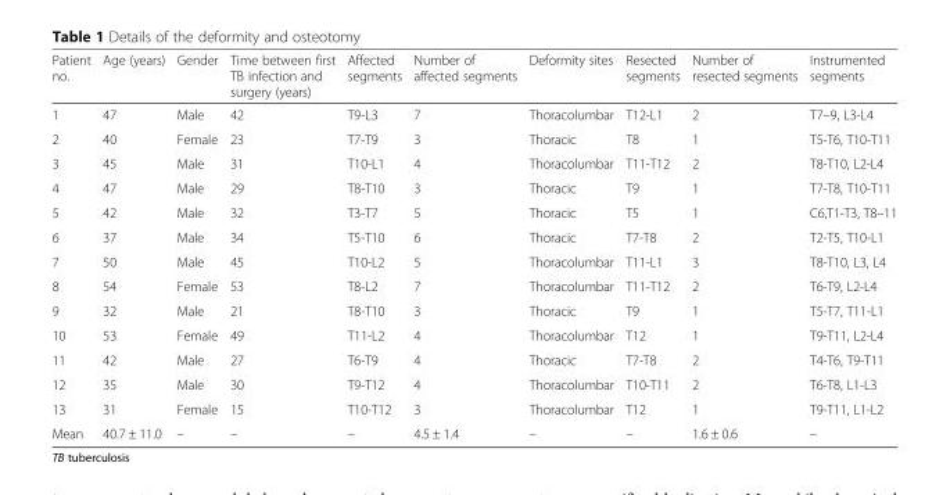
<table><thead><tr><td>Patient no.</td><td>Age (years)</td><td>Gender</td><td>Time between first TB infection and surgery (years)</td><td>Affected segments</td><td>Number of affected segments</td><td>Deformity sites</td><td>Resected segments</td><td>Number of resected segments</td><td>Instrumented segments</td></tr></thead><tbody><tr><td>1</td><td>47</td><td>Male</td><td>42</td><td>T9-L3</td><td>7</td><td>Thoracolumbar</td><td>T12-L1</td><td>2</td><td>T7–9, L3-L4</td></tr><tr><td>2</td><td>40</td><td>Female</td><td>23</td><td>T7-T9</td><td>3</td><td>Thoracic</td><td>T8</td><td>1</td><td>T5-T6, T10-T11</td></tr><tr><td>3</td><td>45</td><td>Male</td><td>31</td><td>T10-L1</td><td>4</td><td>Thoracolumbar</td><td>T11-T12</td><td>2</td><td>T8-T10, L2-L4</td></tr><tr><td>4</td><td>47</td><td>Male</td><td>29</td><td>T8-T10</td><td>3</td><td>Thoracic</td><td>T9</td><td>1</td><td>T7-T8, T10-T11</td></tr><tr><td>5</td><td>42</td><td>Male</td><td>32</td><td>T3-T7</td><td>5</td><td>Thoracic</td><td>T5</td><td>1</td><td>C6,T1-T3, T8–11</td></tr><tr><td>6</td><td>37</td><td>Male</td><td>34</td><td>T5-T10</td><td>6</td><td>Thoracic</td><td>T7-T8</td><td>2</td><td>T2-T5, T10-L1</td></tr><tr><td>7</td><td>50</td><td>Male</td><td>45</td><td>T10-L2</td><td>5</td><td>Thoracolumbar</td><td>T11-L1</td><td>3</td><td>T8-T10, L3, L4</td></tr><tr><td>8</td><td>54</td><td>Female</td><td>53</td><td>T8-L2</td><td>7</td><td>Thoracolumbar</td><td>T11-T12</td><td>2</td><td>T6-T9, L2-L4</td></tr><tr><td>9</td><td>32</td><td>Male</td><td>21</td><td>T8-T10</td><td>3</td><td>Thoracic</td><td>T9</td><td>1</td><td>T5-T7, T11-L1</td></tr><tr><td>10</td><td>53</td><td>Female</td><td>49</td><td>T11-L2</td><td>4</td><td>Thoracolumbar</td><td>T12</td><td>1</td><td>T9-T11, L2-L4</td></tr><tr><td>11</td><td>42</td><td>Male</td><td>27</td><td>T6-T9</td><td>4</td><td>Thoracic</td><td>T7-T8</td><td>2</td><td>T4-T6, T9-T11</td></tr><tr><td>12</td><td>35</td><td>Male</td><td>30</td><td>T9-T12</td><td>4</td><td>Thoracolumbar</td><td>T10-T11</td><td>2</td><td>T6-T8, L1-L3</td></tr><tr><td>13</td><td>31</td><td>Female</td><td>15</td><td>T10-T12</td><td>3</td><td>Thoracolumbar</td><td>T12</td><td>1</td><td>T9-T11, L1-L2</td></tr><tr><td>Mean</td><td>40.7 ± 11.0</td><td>–</td><td>–</td><td>–</td><td>4.5 ± 1.4</td><td>–</td><td>–</td><td>1.6 ± 0.6</td><td>–</td></tr></tbody></table>